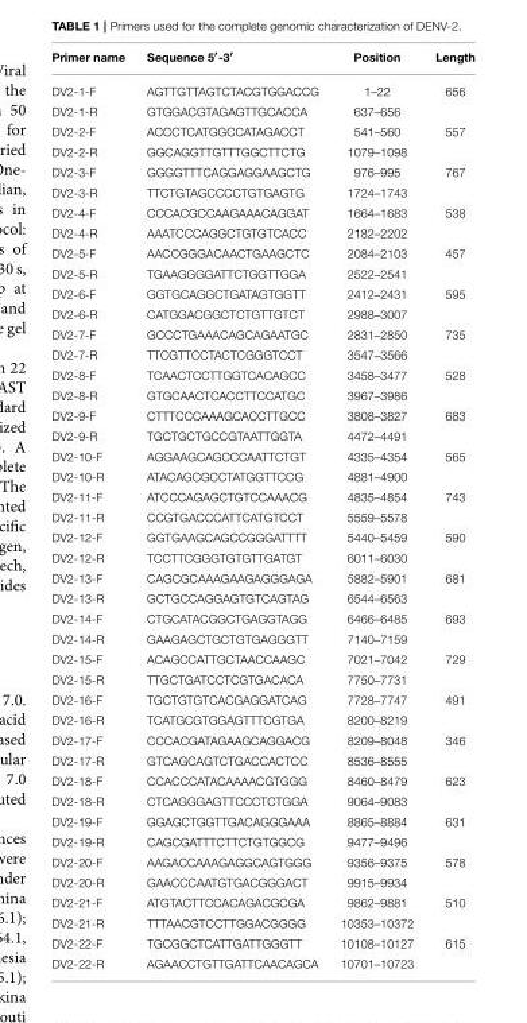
<table><thead><tr><td>Primer name</td><td>Sequence 5<sup>′</sup>-3<sup>′</sup></td><td>Position</td><td>Length</td></tr></thead><tbody><tr><td>DV2-1-F</td><td>AGTTGTTAGTCTACGTGGACCG</td><td>1–22</td><td>656</td></tr><tr><td>DV2-1-R</td><td>GTGGACGTAGAGTTGCACCA</td><td>637–656</td><td></td></tr><tr><td>DV2-2-F</td><td>ACCCTCATGGCCATAGACCT</td><td>541–560</td><td>557</td></tr><tr><td>DV2-2-R</td><td>GGCAGGTTGTTTGGCTTCTG</td><td>1079–1098</td><td></td></tr><tr><td>DV2-3-F</td><td>GGGGTTTCAGGAGGAAGCTG</td><td>976–995</td><td>767</td></tr><tr><td>DV2-3-R</td><td>TTCTGTAGCCCCTGTGAGTG</td><td>1724–1743</td><td></td></tr><tr><td>DV2-4-F</td><td>CCCACGCCAAGAAACAGGAT</td><td>1664–1683</td><td>538</td></tr><tr><td>DV2-4-R</td><td>AAATCCCAGGCTGTGTCACC</td><td>2182–2202</td><td></td></tr><tr><td>DV2-5-F</td><td>AACCGGGACAACTGAAGCTC</td><td>2084–2103</td><td>457</td></tr><tr><td>DV2-5-R</td><td>TGAAGGGGATTCTGGTTGGA</td><td>2522–2541</td><td></td></tr><tr><td>DV2-6-F</td><td>GGTGCAGGCTGATAGTGGTT</td><td>2412–2431</td><td>595</td></tr><tr><td>DV2-6-R</td><td>CATGGACGGCTCTGTTGTCT</td><td>2988–3007</td><td></td></tr><tr><td>DV2-7-F</td><td>GCCCTGAAACAGCAGAATGC</td><td>2831–2850</td><td>735</td></tr><tr><td>DV2-7-R</td><td>TTCGTTCCTACTCGGGTCCT</td><td>3547–3566</td><td></td></tr><tr><td>DV2-8-F</td><td>TCAACTCCTTGGTCACAGCC</td><td>3458–3477</td><td>528</td></tr><tr><td>DV2-8-R</td><td>GTGCAACTCACCTTCCATGC</td><td>3967–3986</td><td></td></tr><tr><td>DV2-9-F</td><td>CTTTCCCAAAGCACCTTGCC</td><td>3808–3827</td><td>683</td></tr><tr><td>DV2-9-R</td><td>TGCTGCTGCCGTAATTGGTA</td><td>4472–4491</td><td></td></tr><tr><td>DV2-10-F</td><td>AGGAAGCAGCCCAATTCTGT</td><td>4335–4354</td><td>565</td></tr><tr><td>DV2-10-R</td><td>ATACAGCGCCTATGGTTCCG</td><td>4881–4900</td><td></td></tr><tr><td>DV2-11-F</td><td>ATCCCAGAGCTGTCCAAACG</td><td>4835–4854</td><td>743</td></tr><tr><td>DV2-11-R</td><td>CCGTGACCCATTCATGTCCT</td><td>5559–5578</td><td></td></tr><tr><td>DV2-12-F</td><td>GGTGAAGCAGCCGGGATTTT</td><td>5440–5459</td><td>590</td></tr><tr><td>DV2-12-R</td><td>TCCTTCGGGTGTGTTGATGT</td><td>6011–6030</td><td></td></tr><tr><td>DV2-13-F</td><td>CAGCGCAAAGAAGAGGGAGA</td><td>5882–5901</td><td>681</td></tr><tr><td>DV2-13-R</td><td>GCTGCCAGGAGTGTCAGTAG</td><td>6544–6563</td><td></td></tr><tr><td>DV2-14-F</td><td>CTGCATACGGCTGAGGTAGG</td><td>6466–6485</td><td>693</td></tr><tr><td>DV2-14-R</td><td>GAAGAGCTGCTGTGAGGGTT</td><td>7140–7159</td><td></td></tr><tr><td>DV2-15-F</td><td>ACAGCCATTGCTAACCAAGC</td><td>7021–7042</td><td>729</td></tr><tr><td>DV2-15-R</td><td>TTGCTGATCCTCGTGACACA</td><td>7750–7731</td><td></td></tr><tr><td>DV2-16-F</td><td>TGCTGTGTCACGAGGATCAG</td><td>7728–7747</td><td>491</td></tr><tr><td>DV2-16-R</td><td>TCATGCGTGGAGTTTCGTGA</td><td>8200–8219</td><td></td></tr><tr><td>DV2-17-F</td><td>CCCACGATAGAAGCAGGACG</td><td>8209–8048</td><td>346</td></tr><tr><td>DV2-17-R</td><td>GTCAGCAGTCTGACCACTCC</td><td>8536–8555</td><td></td></tr><tr><td>DV2-18-F</td><td>CCACCCATACAAAACGTGGG</td><td>8460–8479</td><td>623</td></tr><tr><td>DV2-18-R</td><td>CTCAGGGAGTTCCCTCTGGA</td><td>9064–9083</td><td></td></tr><tr><td>DV2-19-F</td><td>GGAGCTGGTTGACAGGGAAA</td><td>8865–8884</td><td>631</td></tr><tr><td>DV2-19-R</td><td>CAGCGATTTCTTCTGTGGCG</td><td>9477–9496</td><td></td></tr><tr><td>DV2-20-F</td><td>AAGACCAAAGAGGCAGTGGG</td><td>9356–9375</td><td>578</td></tr><tr><td>DV2-20-R</td><td>GAACCCAATGTGACGGGACT</td><td>9915–9934</td><td></td></tr><tr><td>DV2-21-F</td><td>ATGTACTTCCACAGACGCGA</td><td>9862–9881</td><td>510</td></tr><tr><td>DV2-21-R</td><td>TTTAACGTCCTTGGACGGGG</td><td>10353–10372</td><td></td></tr><tr><td>DV2-22-F</td><td>TGCGGCTCATTGATTGGGTT</td><td>10108–10127</td><td>615</td></tr><tr><td>DV2-22-R</td><td>AGAACCTGTTGATTCAACAGCA</td><td>10701–10723</td><td></td></tr></tbody></table>